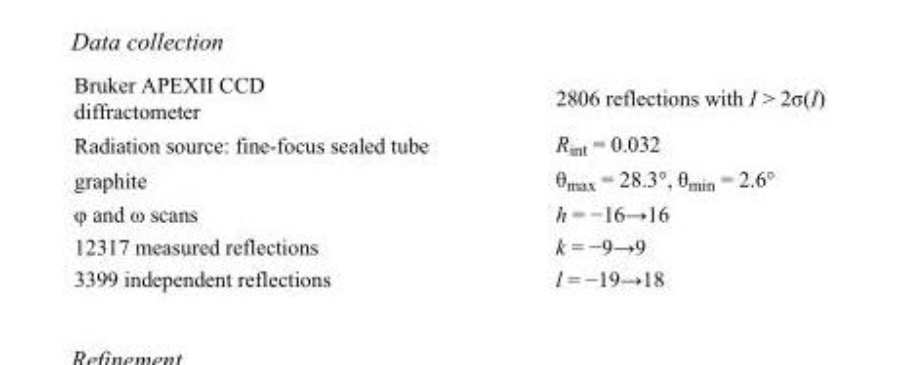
<table><tbody><tr><td>Bruker APEXII CCD diffractometer</td><td>2806 reflections with I &gt; 2σ(I)</td></tr><tr><td>Radiation source: fine-focus sealed tube</td><td>R<sub>int</sub> = 0.032</td></tr><tr><td>graphite</td><td>θ<sub>max</sub> = 28.3°, θ<sub>min</sub> = 2.6°</td></tr><tr><td>φ and ω scans</td><td>h = −16→16</td></tr><tr><td>12317 measured reflections</td><td>k = −9→9</td></tr><tr><td>3399 independent reflections</td><td>l = −19→18</td></tr></tbody></table>